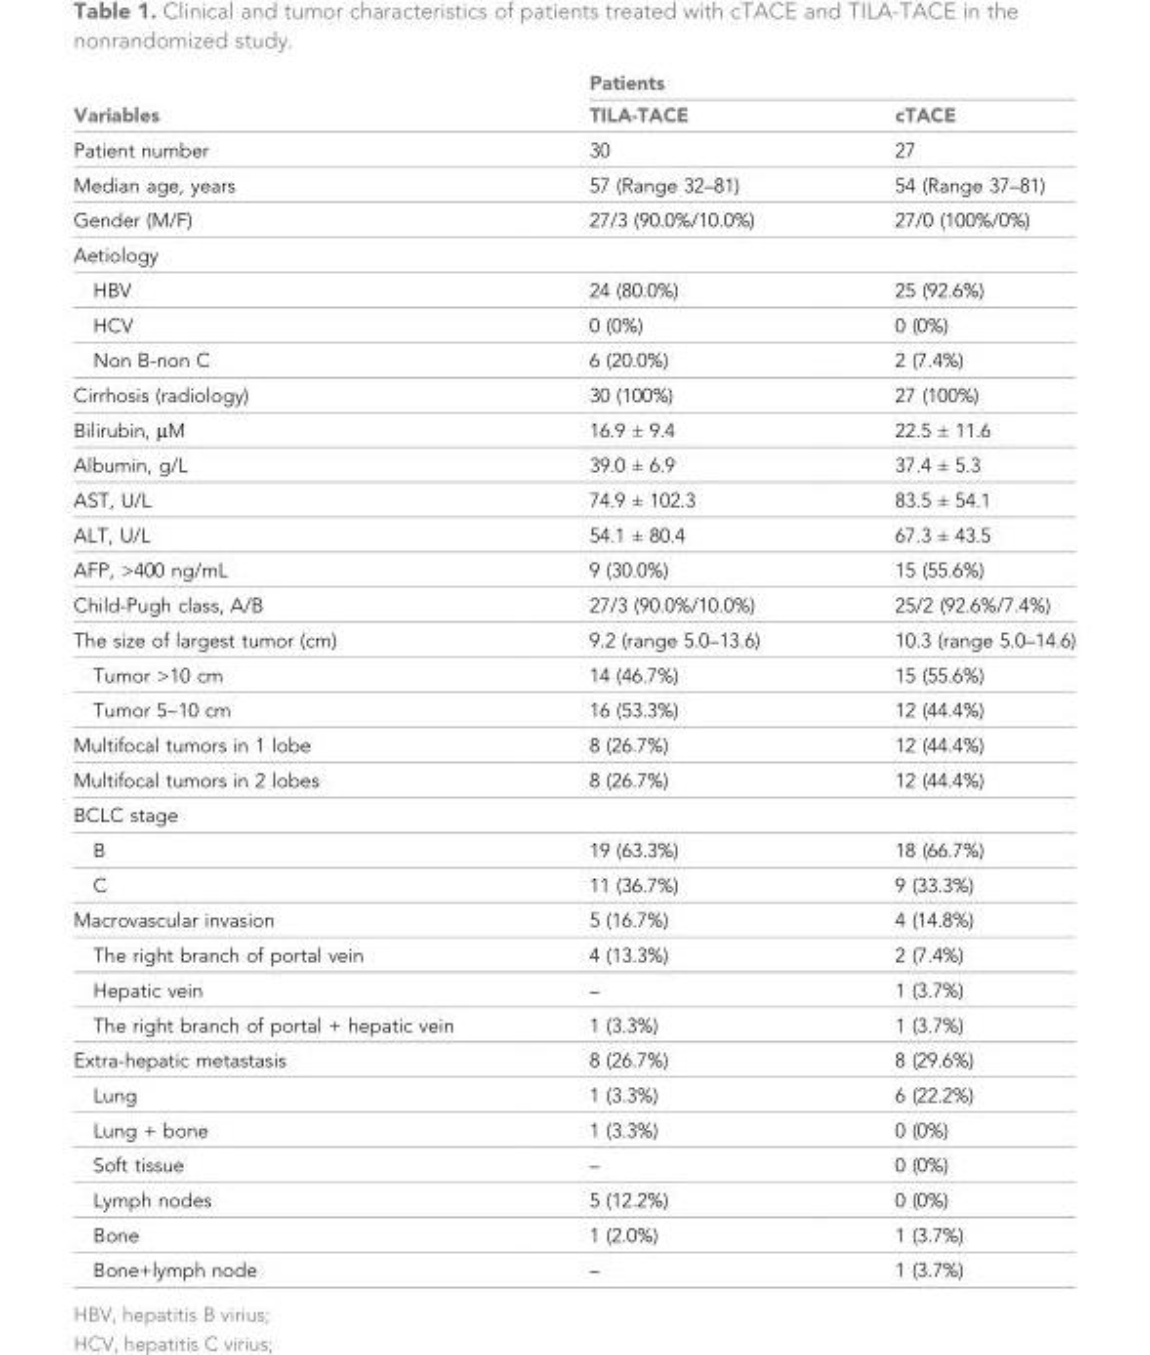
<table><thead><tr><td rowspan="2">Variables</td><td colspan="2">Patients</td></tr><tr><td>TILA-TACE</td><td>cTACE</td></tr></thead><tbody><tr><td>Patient number</td><td>30</td><td>27</td></tr><tr><td>Median age, years</td><td>57 (Range 32–81)</td><td>54 (Range 37–81)</td></tr><tr><td>Gender (M/F)</td><td>27/3 (90.0%/10.0%)</td><td>27/0 (100%/0%)</td></tr><tr><td colspan="3">Aetiology</td></tr><tr><td>HBV</td><td>24 (80.0%)</td><td>25 (92.6%)</td></tr><tr><td>HCV</td><td>0 (0%)</td><td>0 (0%)</td></tr><tr><td>Non B-non C</td><td>6 (20.0%)</td><td>2 (7.4%)</td></tr><tr><td>Cirrhosis (radiology)</td><td>30 (100%)</td><td>27 (100%)</td></tr><tr><td>Bilirubin, μM</td><td>16.9 ± 9.4</td><td>22.5 ± 11.6</td></tr><tr><td>Albumin, g/L</td><td>39.0 ± 6.9</td><td>37.4 ± 5.3</td></tr><tr><td>AST, U/L</td><td>74.9 ± 102.3</td><td>83.5 ± 54.1</td></tr><tr><td>ALT, U/L</td><td>54.1 ± 80.4</td><td>67.3 ± 43.5</td></tr><tr><td>AFP, &gt;400 ng/mL</td><td>9 (30.0%)</td><td>15 (55.6%)</td></tr><tr><td>Child-Pugh class, A/B</td><td>27/3 (90.0%/10.0%)</td><td>25/2 (92.6%/7.4%)</td></tr><tr><td>The size of largest tumor (cm)</td><td>9.2 (range 5.0–13.6)</td><td>10.3 (range 5.0–14.6)</td></tr><tr><td>Tumor &gt;10 cm</td><td>14 (46.7%)</td><td>15 (55.6%)</td></tr><tr><td>Tumor 5~10 cm</td><td>16 (53.3%)</td><td>12 (44.4%)</td></tr><tr><td>Multifocal tumors in 1 lobe</td><td>8 (26.7%)</td><td>12 (44.4%)</td></tr><tr><td>Multifocal tumors in 2 lobes</td><td>8 (26.7%)</td><td>12 (44.4%)</td></tr><tr><td colspan="3">BCLC stage</td></tr><tr><td>B</td><td>19 (63.3%)</td><td>18 (66.7%)</td></tr><tr><td>C</td><td>11 (36.7%)</td><td>9 (33.3%)</td></tr><tr><td>Macrovascular invasion</td><td>5 (16.7%)</td><td>4 (14.8%)</td></tr><tr><td>The right branch of portal vein</td><td>4 (13.3%)</td><td>2 (7.4%)</td></tr><tr><td>Hepatic vein</td><td>–</td><td>1 (3.7%)</td></tr><tr><td>The right branch of portal + hepatic vein</td><td>1 (3.3%)</td><td>1 (3.7%)</td></tr><tr><td>Extra-hepatic metastasis</td><td>8 (26.7%)</td><td>8 (29.6%)</td></tr><tr><td>Lung</td><td>1 (3.3%)</td><td>6 (22.2%)</td></tr><tr><td>Lung + bone</td><td>1 (3.3%)</td><td>0 (0%)</td></tr><tr><td>Soft tissue</td><td>–</td><td>0 (0%)</td></tr><tr><td>Lymph nodes</td><td>5 (12.2%)</td><td>0 (0%)</td></tr><tr><td>Bone</td><td>1 (2.0%)</td><td>1 (3.7%)</td></tr><tr><td>Bone+lymph node</td><td>–</td><td>1 (3.7%)</td></tr></tbody></table>